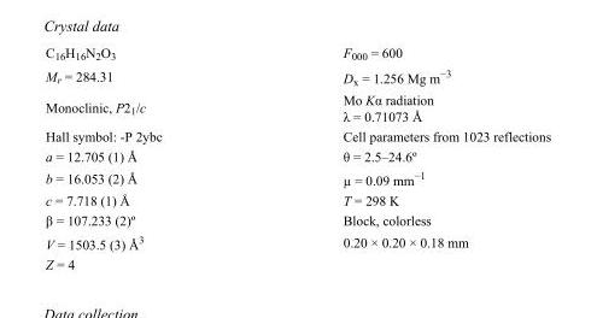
<table><tbody><tr><td>C<sub>16</sub>H<sub>16</sub>N<sub>2</sub>O<sub>3</sub></td><td>F000 = 600</td></tr><tr><td>M<sub>r</sub> = 284.31</td><td>D<sub>x</sub> = 1.256 Mg m<sup>−3</sup></td></tr><tr><td>Monoclinic, P2<sub>1</sub>/c</td><td>Mo Kα radiation λ = 0.71073 Å</td></tr><tr><td>Hall symbol: -P 2ybc</td><td>Cell parameters from 1023 reflections</td></tr><tr><td>a = 12.705 (1) Å</td><td>θ = 2.5–24.6º</td></tr><tr><td>b = 16.053 (2) Å</td><td>µ = 0.09 mm<sup>−1</sup></td></tr><tr><td>c = 7.718 (1) Å</td><td>T = 298 K</td></tr><tr><td>β = 107.233 (2)º</td><td>Block, colorless</td></tr><tr><td>V = 1503.5 (3) Å<sup>3</sup></td><td>0.20 × 0.20 × 0.18 mm</td></tr><tr><td>Z = 4</td><td></td></tr></tbody></table>